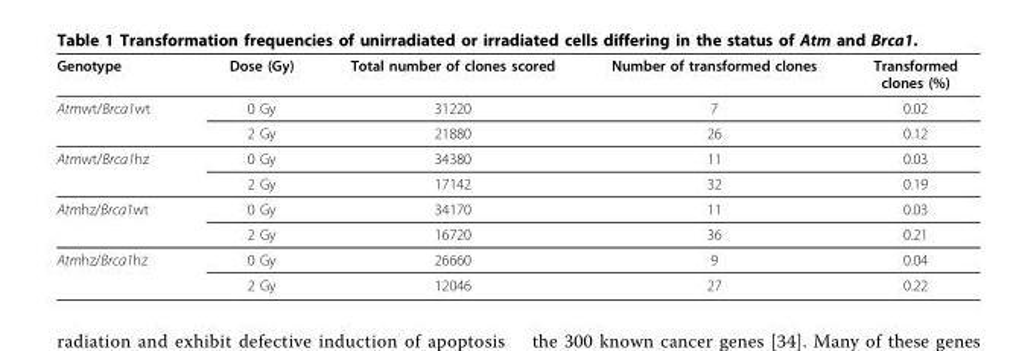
<table><thead><tr><td>Genotype</td><td>Dose (Gy)</td><td>Total number of clones scored</td><td>Number of transformed clones</td><td>Transformed clones (%)</td></tr></thead><tbody><tr><td rowspan="2">Atmwt/Brca1wt</td><td>0 Gy</td><td>31220</td><td>7</td><td>0.02</td></tr><tr><td>2 Gy</td><td>21880</td><td>26</td><td>0.12</td></tr><tr><td rowspan="2">Atmwt/Brca1hz</td><td>0 Gy</td><td>34380</td><td>11</td><td>0.03</td></tr><tr><td>2 Gy</td><td>17142</td><td>32</td><td>0.19</td></tr><tr><td rowspan="2">Atmhz/Brca1wt</td><td>0 Gy</td><td>34170</td><td>11</td><td>0.03</td></tr><tr><td>2 Gy</td><td>16720</td><td>36</td><td>0.21</td></tr><tr><td rowspan="2">Atmhz/Brca1hz</td><td>0 Gy</td><td>26660</td><td>9</td><td>0.04</td></tr><tr><td>2 Gy</td><td>12046</td><td>27</td><td>0.22</td></tr></tbody></table>